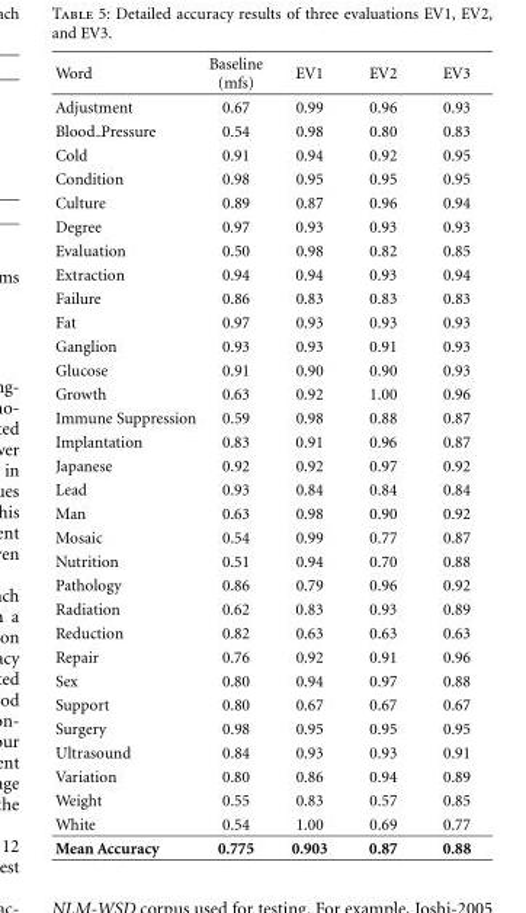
<table><thead><tr><td>Word</td><td>Baseline (mfs)</td><td>EV1</td><td>EV2</td><td>EV3</td></tr></thead><tbody><tr><td>Adjustment</td><td>0.67</td><td>0.99</td><td>0.96</td><td>0.93</td></tr><tr><td>Blood Pressure</td><td>0.54</td><td>0.98</td><td>0.80</td><td>0.83</td></tr><tr><td>Cold</td><td>0.91</td><td>0.94</td><td>0.92</td><td>0.95</td></tr><tr><td>Condition</td><td>0.98</td><td>0.95</td><td>0.95</td><td>0.95</td></tr><tr><td>Culture</td><td>0.89</td><td>0.87</td><td>0.96</td><td>0.94</td></tr><tr><td>Degree</td><td>0.97</td><td>0.93</td><td>0.93</td><td>0.93</td></tr><tr><td>Evaluation</td><td>0.50</td><td>0.98</td><td>0.82</td><td>0.85</td></tr><tr><td>Extraction</td><td>0.94</td><td>0.94</td><td>0.93</td><td>0.94</td></tr><tr><td>Failure</td><td>0.86</td><td>0.83</td><td>0.83</td><td>0.83</td></tr><tr><td>Fat</td><td>0.97</td><td>0.93</td><td>0.93</td><td>0.93</td></tr><tr><td>Ganglion</td><td>0.93</td><td>0.93</td><td>0.91</td><td>0.93</td></tr><tr><td>Glucose</td><td>0.91</td><td>0.90</td><td>0.90</td><td>0.93</td></tr><tr><td>Growth</td><td>0.63</td><td>0.92</td><td>1.00</td><td>0.96</td></tr><tr><td>Immune Suppression</td><td>0.59</td><td>0.98</td><td>0.88</td><td>0.87</td></tr><tr><td>Implantation</td><td>0.83</td><td>0.91</td><td>0.96</td><td>0.87</td></tr><tr><td>Japanese</td><td>0.92</td><td>0.92</td><td>0.97</td><td>0.92</td></tr><tr><td>Lead</td><td>0.93</td><td>0.84</td><td>0.84</td><td>0.84</td></tr><tr><td>Man</td><td>0.63</td><td>0.98</td><td>0.90</td><td>0.92</td></tr><tr><td>Mosaic</td><td>0.54</td><td>0.99</td><td>0.77</td><td>0.87</td></tr><tr><td>Nutrition</td><td>0.51</td><td>0.94</td><td>0.70</td><td>0.88</td></tr><tr><td>Pathology</td><td>0.86</td><td>0.79</td><td>0.96</td><td>0.92</td></tr><tr><td>Radiation</td><td>0.62</td><td>0.83</td><td>0.93</td><td>0.89</td></tr><tr><td>Reduction</td><td>0.82</td><td>0.63</td><td>0.63</td><td>0.63</td></tr><tr><td>Repair</td><td>0.76</td><td>0.92</td><td>0.91</td><td>0.96</td></tr><tr><td>Sex</td><td>0.80</td><td>0.94</td><td>0.97</td><td>0.88</td></tr><tr><td>Support</td><td>0.80</td><td>0.67</td><td>0.67</td><td>0.67</td></tr><tr><td>Surgery</td><td>0.98</td><td>0.95</td><td>0.95</td><td>0.95</td></tr><tr><td>Ultrasound</td><td>0.84</td><td>0.93</td><td>0.93</td><td>0.91</td></tr><tr><td>Variation</td><td>0.80</td><td>0.86</td><td>0.94</td><td>0.89</td></tr><tr><td>Weight</td><td>0.55</td><td>0.83</td><td>0.57</td><td>0.85</td></tr><tr><td>White</td><td>0.54</td><td>1.00</td><td>0.69</td><td>0.77</td></tr><tr><td>Mean Accuracy</td><td>0.775</td><td>0.903</td><td>0.87</td><td>0.88</td></tr></tbody></table>